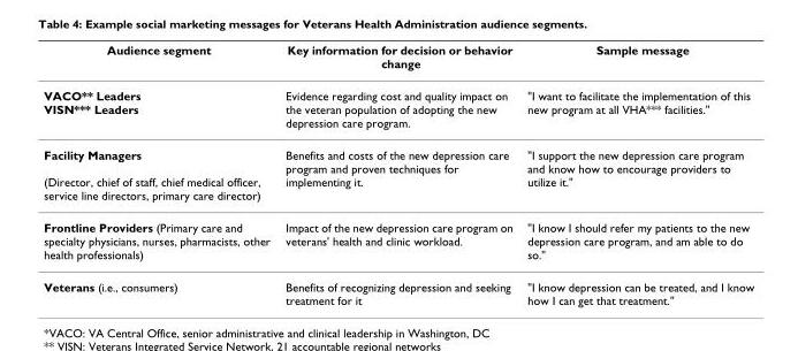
<table><thead><tr><td>Audience segment</td><td>Key information for decision or behavior change</td><td>Sample message</td></tr></thead><tbody><tr><td>VACO** Leaders VISN*** Leaders</td><td>Evidence regarding cost and quality impact on the veteran population of adopting the new depression care program.</td><td>&quot;I want to facilitate the implementation of this new program at all VHA*** facilities.&quot;</td></tr><tr><td>Facility Managers (Director, chief of staff, chief medical officer, service line directors, primary care director)</td><td>Benefits and costs of the new depression care program and proven techniques for implementing it.</td><td>&quot;I support the new depression care program and know how to encourage providers to utilize it.&quot;</td></tr><tr><td>Frontline Providers (Primary care and specialty physicians, nurses, pharmacists, other health professionals)</td><td>Impact of the new depression care program on veterans&#x27; health and clinic workload.</td><td>&quot;I know I should refer my patients to the new depression care program, and am able to do so.&quot;</td></tr><tr><td>Veterans (i.e., consumers)</td><td>Benefits of recognizing depression and seeking treatment for it</td><td>&quot;I know depression can be treated, and I know how I can get that treatment.&quot;</td></tr></tbody></table>